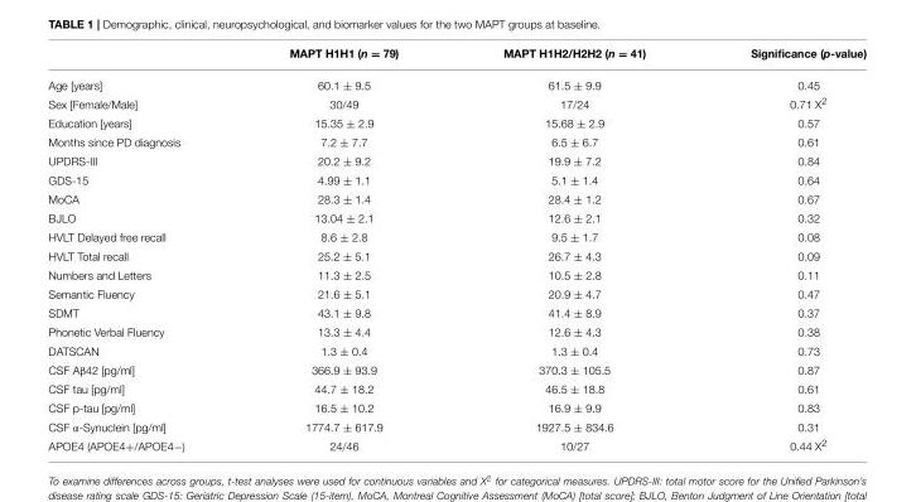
<table><thead><tr><td></td><td>MAPT H1H1 (n = 79)</td><td>MAPT H1H2/H2H2 (n = 41)</td><td>Significance (p-value)</td></tr></thead><tbody><tr><td>Age [years]</td><td>60.1 ± 9.5</td><td>61.5 ± 9.9</td><td>0.45</td></tr><tr><td>Sex [Female/Male]</td><td>30/49</td><td>17/24</td><td>0.71 X<sup>2</sup></td></tr><tr><td>Education [years]</td><td>15.35 ± 2.9</td><td>15.68 ± 2.9</td><td>0.57</td></tr><tr><td>Months since PD diagnosis</td><td>7.2 ± 7.7</td><td>6.5 ± 6.7</td><td>0.61</td></tr><tr><td>UPDRS-III</td><td>20.2 ± 9.2</td><td>19.9 ± 7.2</td><td>0.84</td></tr><tr><td>GDS-15</td><td>4.99 ± 1.1</td><td>5.1 ± 1.4</td><td>0.64</td></tr><tr><td>MoCA</td><td>28.3 ± 1.4</td><td>28.4 ± 1.2</td><td>0.67</td></tr><tr><td>BJLO</td><td>13.04 ± 2.1</td><td>12.6 ± 2.1</td><td>0.32</td></tr><tr><td>HVLT Delayed free recall</td><td>8.6 ± 2.8</td><td>9.5 ± 1.7</td><td>0.08</td></tr><tr><td>HVLT Total recall</td><td>25.2 ± 5.1</td><td>26.7 ± 4.3</td><td>0.09</td></tr><tr><td>Numbers and Letters</td><td>11.3 ± 2.5</td><td>10.5 ± 2.8</td><td>0.11</td></tr><tr><td>Semantic Fluency</td><td>21.6 ± 5.1</td><td>20.9 ± 4.7</td><td>0.47</td></tr><tr><td>SDMT</td><td>43.1 ± 9.8</td><td>41.4 ± 8.9</td><td>0.37</td></tr><tr><td>Phonetic Verbal Fluency</td><td>13.3 ± 4.4</td><td>12.6 ± 4.3</td><td>0.38</td></tr><tr><td>DATSCAN</td><td>1.3 ± 0.4</td><td>1.3 ± 0.4</td><td>0.73</td></tr><tr><td>CSF Aβ42 [pg/ml]</td><td>366.9 ± 93.9</td><td>370.3 ± 105.5</td><td>0.87</td></tr><tr><td>CSF tau [pg/ml]</td><td>44.7 ± 18.2</td><td>46.5 ± 18.8</td><td>0.61</td></tr><tr><td>CSF p-tau [pg/ml]</td><td>16.5 ± 10.2</td><td>16.9 ± 9.9</td><td>0.83</td></tr><tr><td>CSF α-Synuclein [pg/ml]</td><td>1774.7 ± 617.9</td><td>1927.5 ± 834.6</td><td>0.31</td></tr><tr><td>APOE4 (APOE4+/APOE4−)</td><td>24/46</td><td>10/27</td><td>0.44 X<sup>2</sup></td></tr></tbody></table>